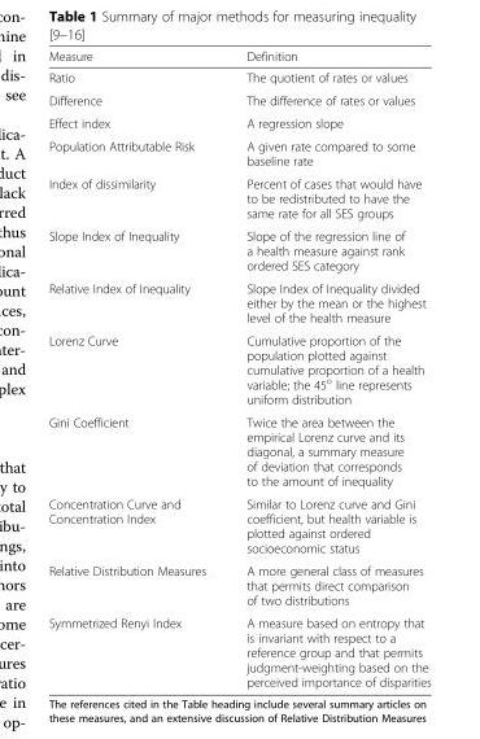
<table><thead><tr><td>Measure</td><td>Definition</td></tr></thead><tbody><tr><td>Ratio</td><td>The quotient of rates or values</td></tr><tr><td>Difference</td><td>The difference of rates or values</td></tr><tr><td>Effect index</td><td>A regression slope</td></tr><tr><td>Population Attributable Risk</td><td>A given rate compared to some baseline rate</td></tr><tr><td>Index of dissimilarity</td><td>Percent of cases that would have to be redistributed to have the same rate for all SES groups</td></tr><tr><td>Slope Index of Inequality</td><td>Slope of the regression line of a health measure against rank ordered SES category</td></tr><tr><td>Relative Index of Inequality</td><td>Slope Index of Inequality divided either by the mean or the highest level of the health measure</td></tr><tr><td>Lorenz Curve</td><td>Cumulative proportion of the population plotted against cumulative proportion of a health variable; the 45<sup>o</sup> line represents uniform distribution</td></tr><tr><td>Gini Coefficient</td><td>Twice the area between the empirical Lorenz curve and its diagonal, a summary measure of deviation that corresponds to the amount of inequality</td></tr><tr><td>Concentration Curve and Concentration Index</td><td>Similar to Lorenz curve and Gini coefficient, but health variable is plotted against ordered socioeconomic status</td></tr><tr><td>Relative Distribution Measures</td><td>A more general class of measures that permits direct comparison of two distributions</td></tr><tr><td>Symmetrized Renyi Index</td><td>A measure based on entropy that is invariant with respect to a reference group and that permits judgment-weighting based on the perceived importance of disparities</td></tr></tbody></table>